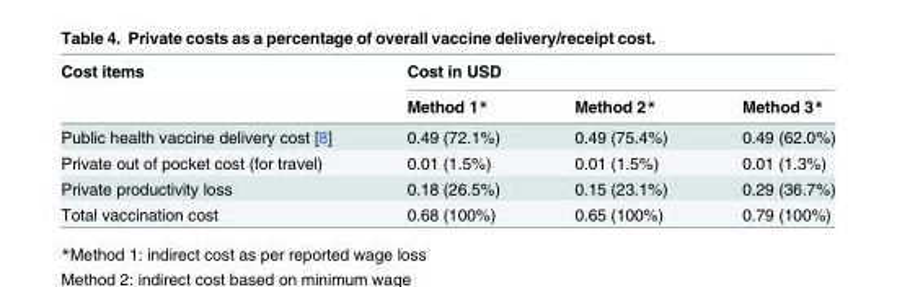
<table><thead><tr><td rowspan="2">Cost items</td><td colspan="3">Cost in USD</td></tr><tr><td>Method 1*</td><td>Method 2*</td><td>Method 3*</td></tr></thead><tbody><tr><td>Public health vaccine delivery cost [8]</td><td>0.49 (72.1%)</td><td>0.49 (75.4%)</td><td>0.49 (62.0%)</td></tr><tr><td>Private out of pocket cost (for travel)</td><td>0.01 (1.5%)</td><td>0.01 (1.5%)</td><td>0.01 (1.3%)</td></tr><tr><td>Private productivity loss</td><td>0.18 (26.5%)</td><td>0.15 (23.1%)</td><td>0.29 (36.7%)</td></tr><tr><td>Total vaccination cost</td><td>0.68 (100%)</td><td>0.65 (100%)</td><td>0.79 (100%)</td></tr></tbody></table>